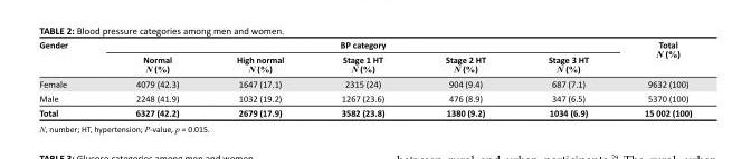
<table><thead><tr><td rowspan="2">Gender</td><td colspan="5">BP category</td><td rowspan="2">Total N (%)</td></tr><tr><td>Normal N (%)</td><td>High normal N (%)</td><td>Stage 1 HT N (%)</td><td>Stage 2 HT N (%)</td><td>Stage 3 HT N (%)</td></tr></thead><tbody><tr><td>Female</td><td>4079 (42.3)</td><td>1647 (17.1)</td><td>2315 (24)</td><td>904 (9.4)</td><td>687 (7.1)</td><td>9632 (100)</td></tr><tr><td>Male</td><td>2248 (41.9)</td><td>1032 (19.2)</td><td>1267 (23.6)</td><td>476 (8.9)</td><td>347 (6.5)</td><td>5370 (100)</td></tr><tr><td>Total</td><td>6327 (42.2)</td><td>2679 (17.9)</td><td>3582 (23.8)</td><td>1380 (9.2)</td><td>1034 (6.9)</td><td>15 002 (100)</td></tr></tbody></table>